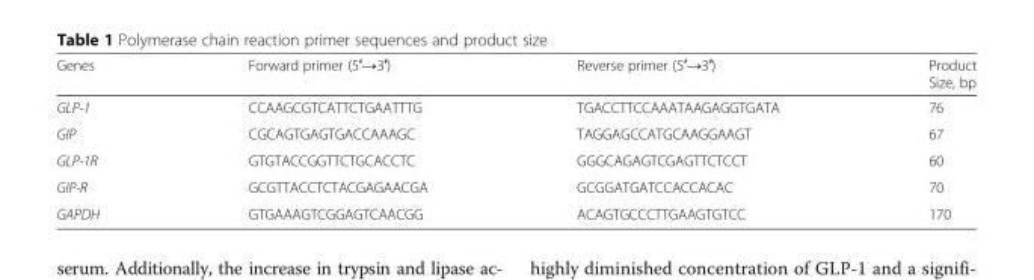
<table><thead><tr><td>Genes</td><td>Forward primer (5′→3′)</td><td>Reverse primer (5′→3′)</td><td>Product Size, bp</td></tr></thead><tbody><tr><td>GLP-1</td><td>CCAAGCGTCATTCTGAATTTG</td><td>TGACCTTCCAAATAAGAGGTGATA</td><td>76</td></tr><tr><td>GIP</td><td>CGCAGTGAGTGACCAAAGC</td><td>TAGGAGCCATGCAAGGAAGT</td><td>67</td></tr><tr><td>GLP-1R</td><td>GTGTACCGGTTCTGCACCTC</td><td>GGGCAGAGTCGAGTTCTCCT</td><td>60</td></tr><tr><td>GIP-R</td><td>GCGTTACCTCTACGAGAACGA</td><td>GCGGATGATCCACCACAC</td><td>70</td></tr><tr><td>GAPDH</td><td>GTGAAAGTCGGAGTCAACGG</td><td>ACAGTGCCCTTGAAGTGTCC</td><td>170</td></tr></tbody></table>